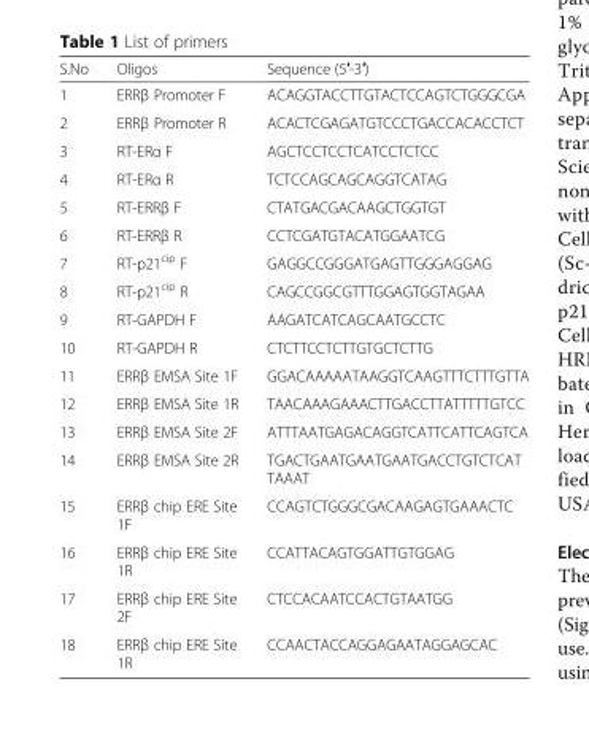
<table><thead><tr><td>S.No</td><td>Oligos</td><td>Sequence (5′-3′)</td></tr></thead><tbody><tr><td>1</td><td>ERRβ Promoter F</td><td>ACAGGTACCTTGTACTCCAGTCTGGGCGA</td></tr><tr><td>2</td><td>ERRβ Promoter R</td><td>ACACTCGAGATGTCCCTGACCACACCTCT</td></tr><tr><td>3</td><td>RT-ERα F</td><td>AGCTCCTCCTCATCCTCTCC</td></tr><tr><td>4</td><td>RT-ERα R</td><td>TCTCCAGCAGCAGGTCATAG</td></tr><tr><td>5</td><td>RT-ERRβ F</td><td>CTATGACGACAAGCTGGTGT</td></tr><tr><td>6</td><td>RT-ERRβ R</td><td>CCTCGATGTACATGGAATCG</td></tr><tr><td>7</td><td>RT-p21<sup>cip</sup> F</td><td>GAGGCCGGGATGAGTTGGGAGGAG</td></tr><tr><td>8</td><td>RT-p21<sup>cip</sup> R</td><td>CAGCCGGCGTTTGGAGTGGTAGAA</td></tr><tr><td>9</td><td>RT-GAPDH F</td><td>AAGATCATCAGCAATGCCTC</td></tr><tr><td>10</td><td>RT-GAPDH R</td><td>CTCTTCCTCTTGTGCTCTTG</td></tr><tr><td>11</td><td>ERRβ EMSA Site 1F</td><td>GGACAAAAATAAGGTCAAGTTTCTTTGTTA</td></tr><tr><td>12</td><td>ERRβ EMSA Site 1R</td><td>TAACAAAGAAACTTGACCTTATTTTTGTCC</td></tr><tr><td>13</td><td>ERRβ EMSA Site 2F</td><td>ATTTAATGAGACAGGTCATTCATTCAGTCA</td></tr><tr><td>14</td><td>ERRβ EMSA Site 2R</td><td>TGACTGAATGAATGAATGACCTGTCTCAT TAAAT</td></tr><tr><td>15</td><td>ERRβ chip ERE Site 1F</td><td>CCAGTCTGGGCGACAAGAGTGAAACTC</td></tr><tr><td>16</td><td>ERRβ chip ERE Site 1R</td><td>CCATTACAGTGGATTGTGGAG</td></tr><tr><td>17</td><td>ERRβ chip ERE Site 2F</td><td>CTCCACAATCCACTGTAATGG</td></tr><tr><td>18</td><td>ERRβ chip ERE Site 1R</td><td>CCAACTACCAGGAGAATAGGAGCAC</td></tr></tbody></table>